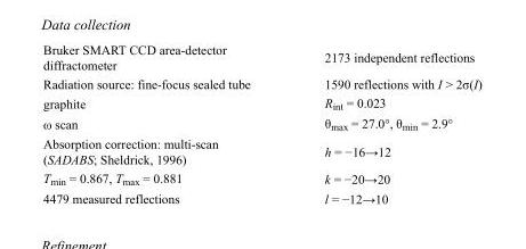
<table><tbody><tr><td>Bruker SMART CCD area-detector diffractometer</td><td>2173 independent reflections</td></tr><tr><td>Radiation source: fine-focus sealed tube</td><td>1590 reflections with I &gt; 2σ(I)</td></tr><tr><td>graphite</td><td>R<sub>int</sub> = 0.023</td></tr><tr><td>ω scan</td><td>θ<sub>max</sub> = 27.0°, θ<sub>min</sub> = 2.9°</td></tr><tr><td>Absorption correction: multi-scan (SADABS; Sheldrick, 1996)</td><td>h = −16→12</td></tr><tr><td>T<sub>min</sub> = 0.867, T<sub>max</sub> = 0.881</td><td>k = −20→20</td></tr><tr><td>4479 measured reflections</td><td>l = −12→10</td></tr></tbody></table>